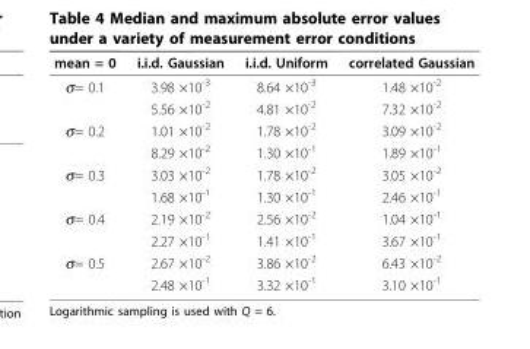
<table><thead><tr><td>mean = 0</td><td>i.i.d. Gaussian</td><td>i.i.d. Uniform</td><td>correlated Gaussian</td></tr></thead><tbody><tr><td rowspan="2">σ= 0.1</td><td>3.98 ×10<sup>-3</sup></td><td>8.64 ×10<sup>-3</sup></td><td>1.48 ×10<sup>-2</sup></td></tr><tr><td>5.56 ×10<sup>-2</sup></td><td>4.81 ×10<sup>-2</sup></td><td>7.32 ×10<sup>-2</sup></td></tr><tr><td rowspan="2">σ= 0.2</td><td>1.01 ×10<sup>-2</sup></td><td>1.78 ×10<sup>-2</sup></td><td>3.09 ×10<sup>-2</sup></td></tr><tr><td>8.29 ×10<sup>-2</sup></td><td>1.30 ×10<sup>-1</sup></td><td>1.89 ×10<sup>-1</sup></td></tr><tr><td rowspan="2">σ= 0.3</td><td>3.03 ×10<sup>-2</sup></td><td>1.78 ×10<sup>-2</sup></td><td>3.05 ×10<sup>-2</sup></td></tr><tr><td>1.68 ×10<sup>-1</sup></td><td>1.30 ×10<sup>-1</sup></td><td>2.46 ×10<sup>-1</sup></td></tr><tr><td rowspan="2">σ= 0.4</td><td>2.19 ×10<sup>-2</sup></td><td>2.56 ×10<sup>-2</sup></td><td>1.04 ×10<sup>-1</sup></td></tr><tr><td>2.27 ×10<sup>-1</sup></td><td>1.41 ×10<sup>-1</sup></td><td>3.67 ×10<sup>-1</sup></td></tr><tr><td rowspan="2">σ= 0.5</td><td>2.67 ×10<sup>-2</sup></td><td>3.86 ×10<sup>-2</sup></td><td>6.43 ×10<sup>-2</sup></td></tr><tr><td>2.48 ×10<sup>-1</sup></td><td>3.32 ×10<sup>-1</sup></td><td>3.10 ×10<sup>-1</sup></td></tr></tbody></table>